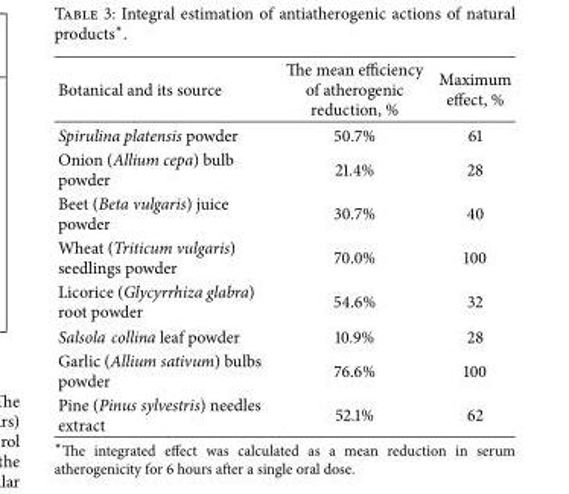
<table><thead><tr><td>Botanical and its source</td><td>The mean efficiency of atherogenic reduction, %</td><td>Maximum effect, %</td></tr></thead><tbody><tr><td>Spirulina platensis powder</td><td>50.7%</td><td>61</td></tr><tr><td>Onion (Allium cepa) bulb powder</td><td>21.4%</td><td>28</td></tr><tr><td>Beet (Beta vulgaris) juice powder</td><td>30.7%</td><td>40</td></tr><tr><td>Wheat (Triticum vulgaris) seedlings powder</td><td>70.0%</td><td>100</td></tr><tr><td>Licorice (Glycyrrhiza glabra) root powder</td><td>54.6%</td><td>32</td></tr><tr><td>Salsola collina leaf powder</td><td>10.9%</td><td>28</td></tr><tr><td>Garlic (Allium sativum) bulbs powder</td><td>76.6%</td><td>100</td></tr><tr><td>Pine (Pinus sylvestris) needles extract</td><td>52.1%</td><td>62</td></tr></tbody></table>